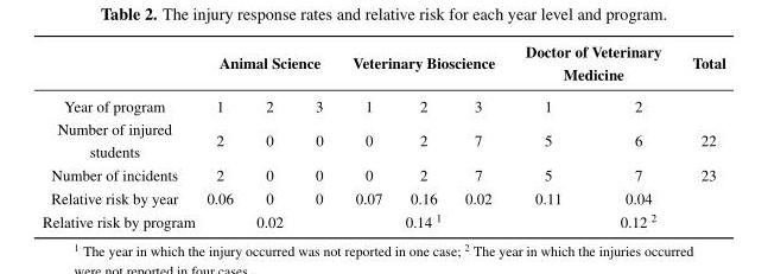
<table><thead><tr><td rowspan="2">Year of program</td><td colspan="3">Animal Science</td><td colspan="3">Veterinary Bioscience</td><td colspan="2">Doctor of Veterinary Medicine</td><td rowspan="2">Total</td></tr><tr><td>1</td><td>2</td><td>3</td><td>1</td><td>2</td><td>3</td><td>1</td><td>2</td></tr></thead><tbody><tr><td>Number of injured students</td><td>2</td><td>0</td><td>0</td><td>0</td><td>2</td><td>7</td><td>5</td><td>6</td><td>22</td></tr><tr><td>Number of incidents</td><td>2</td><td>0</td><td>0</td><td>0</td><td>2</td><td>7</td><td>5</td><td>7</td><td>23</td></tr><tr><td>Relative risk by year</td><td>0.06</td><td>0</td><td>0</td><td>0.07</td><td>0.16</td><td>0.02</td><td>0.11</td><td>0.04</td><td></td></tr><tr><td>Relative risk by program</td><td></td><td>0.02</td><td></td><td></td><td>0.14 <sup>1</sup></td><td></td><td></td><td>0.12 <sup>2</sup></td><td></td></tr></tbody></table>